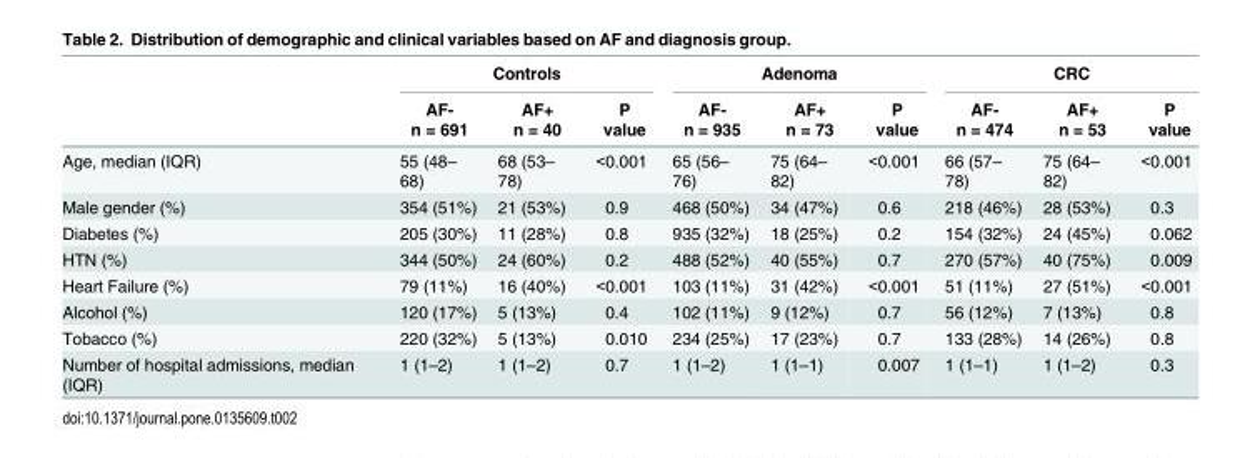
<table><thead><tr><td rowspan="3"></td><td colspan="3">Controls</td><td colspan="3">Adenoma</td><td colspan="3">CRC</td></tr><tr><td rowspan="2">AF- n = 691</td><td rowspan="2">AF+ n = 40</td><td rowspan="2">P value</td><td rowspan="2">AF- n = 935</td><td rowspan="2">AF+ n = 73</td><td rowspan="2">P value</td><td rowspan="2">AF- n = 474</td><td rowspan="2">AF+ n = 53</td><td rowspan="2">P value</td></tr><tr></tr></thead><tbody><tr><td>Age, median (IQR)</td><td>55 (48– 68)</td><td>68 (53– 78)</td><td>&lt;0.001</td><td>65 (56– 76)</td><td>75 (64– 82)</td><td>&lt;0.001</td><td>66 (57– 78)</td><td>75 (64– 82)</td><td>&lt;0.001</td></tr><tr><td>Male gender (%)</td><td>354 (51%)</td><td>21 (53%)</td><td>0.9</td><td>468 (50%)</td><td>34 (47%)</td><td>0.6</td><td>218 (46%)</td><td>28 (53%)</td><td>0.3</td></tr><tr><td>Diabetes (%)</td><td>205 (30%)</td><td>11 (28%)</td><td>0.8</td><td>935 (32%)</td><td>18 (25%)</td><td>0.2</td><td>154 (32%)</td><td>24 (45%)</td><td>0.062</td></tr><tr><td>HTN (%)</td><td>344 (50%)</td><td>24 (60%)</td><td>0.2</td><td>488 (52%)</td><td>40 (55%)</td><td>0.7</td><td>270 (57%)</td><td>40 (75%)</td><td>0.009</td></tr><tr><td>Heart Failure (%)</td><td>79 (11%)</td><td>16 (40%)</td><td>&lt;0.001</td><td>103 (11%)</td><td>31 (42%)</td><td>&lt;0.001</td><td>51 (11%)</td><td>27 (51%)</td><td>&lt;0.001</td></tr><tr><td>Alcohol (%)</td><td>120 (17%)</td><td>5 (13%)</td><td>0.4</td><td>102 (11%)</td><td>9 (12%)</td><td>0.7</td><td>56 (12%)</td><td>7 (13%)</td><td>0.8</td></tr><tr><td>Tobacco (%)</td><td>220 (32%)</td><td>5 (13%)</td><td>0.010</td><td>234 (25%)</td><td>17 (23%)</td><td>0.7</td><td>133 (28%)</td><td>14 (26%)</td><td>0.8</td></tr><tr><td>Number of hospital admissions, median (IQR)</td><td>1 (1–2)</td><td>1 (1–2)</td><td>0.7</td><td>1 (1–2)</td><td>1 (1–1)</td><td>0.007</td><td>1 (1–1)</td><td>1 (1–2)</td><td>0.3</td></tr></tbody></table>